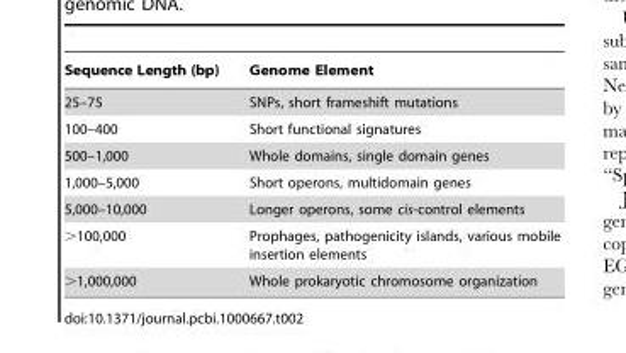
<table><thead><tr><td>Sequence Length (bp)</td><td>Genome Element</td></tr></thead><tbody><tr><td>25–75</td><td>SNPs, short frameshift mutations</td></tr><tr><td>100–400</td><td>Short functional signatures</td></tr><tr><td>500–1,000</td><td>Whole domains, single domain genes</td></tr><tr><td>1,000–5,000</td><td>Short operons, multidomain genes</td></tr><tr><td>5,000–10,000</td><td>Longer operons, some cis-control elements</td></tr><tr><td>&gt;100,000</td><td>Prophages, pathogenicity islands, various mobile insertion elements</td></tr><tr><td>&gt;1,000,000</td><td>Whole prokaryotic chromosome organization</td></tr></tbody></table>